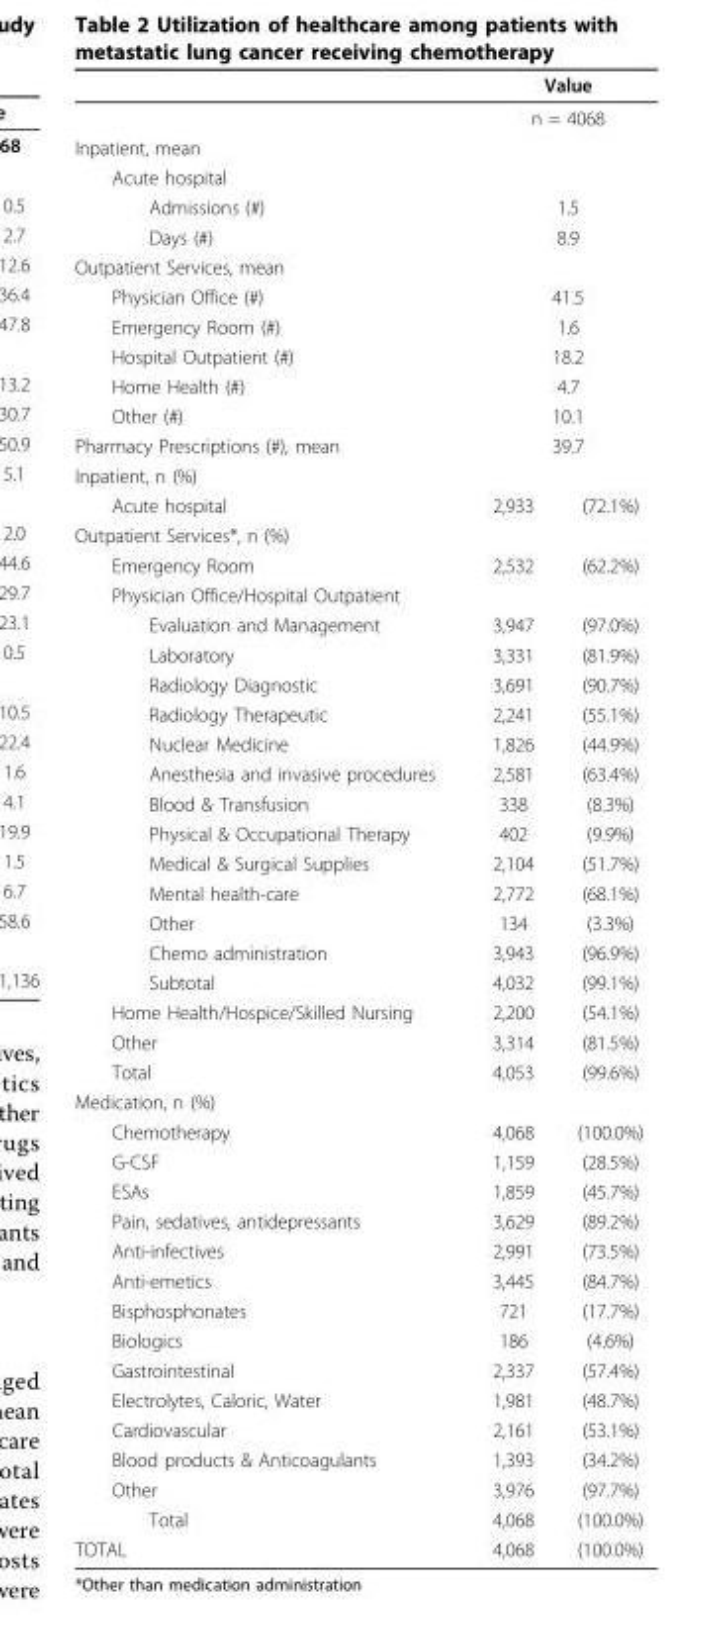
<table><thead><tr><td rowspan="3">Inpatient, mean</td><td rowspan="2" colspan="2">Value n = 4068</td></tr><tr></tr><tr><td></td><td></td></tr></thead><tbody><tr><td colspan="3">Acute hospital</td></tr><tr><td>Admissions (#)</td><td colspan="2">1.5</td></tr><tr><td>Days (#)</td><td colspan="2">8.9</td></tr><tr><td colspan="3">Outpatient Services, mean</td></tr><tr><td>Physician Office (#)</td><td colspan="2">41.5</td></tr><tr><td>Emergency Room (#)</td><td colspan="2">1.6</td></tr><tr><td>Hospital Outpatient (#)</td><td colspan="2">18.2</td></tr><tr><td>Home Health (#)</td><td colspan="2">4.7</td></tr><tr><td>Other (#)</td><td colspan="2">10.1</td></tr><tr><td>Pharmacy Prescriptions (#), mean</td><td colspan="2">39.7</td></tr><tr><td colspan="3">Inpatient, n (%)</td></tr><tr><td>Acute hospital</td><td>2,933</td><td>(72.1%)</td></tr><tr><td colspan="3">Outpatient Services*, n (%)</td></tr><tr><td>Emergency Room</td><td>2,532</td><td>(62.2%)</td></tr><tr><td colspan="3">Physician Office/Hospital Outpatient</td></tr><tr><td>Evaluation and Management</td><td>3,947</td><td>(97.0%)</td></tr><tr><td>Laboratory</td><td>3,331</td><td>(81.9%)</td></tr><tr><td>Radiology Diagnostic</td><td>3,691</td><td>(90.7%)</td></tr><tr><td>Radiology Therapeutic</td><td>2,241</td><td>(55.1%)</td></tr><tr><td>Nuclear Medicine</td><td>1,826</td><td>(44.9%)</td></tr><tr><td>Anesthesia and invasive procedures</td><td>2,581</td><td>(63.4%)</td></tr><tr><td>Blood &amp; Transfusion</td><td>338</td><td>(8.3%)</td></tr><tr><td>Physical &amp; Occupational Therapy</td><td>402</td><td>(9.9%)</td></tr><tr><td>Medical &amp; Surgical Supplies</td><td>2,104</td><td>(51.7%)</td></tr><tr><td>Mental health-care</td><td>2,772</td><td>(68.1%)</td></tr><tr><td>Other</td><td>134</td><td>(3.3%)</td></tr><tr><td>Chemo administration</td><td>3,943</td><td>(96.9%)</td></tr><tr><td>Subtotal</td><td>4,032</td><td>(99.1%)</td></tr><tr><td>Home Health/Hospice/Skilled Nursing</td><td>2,200</td><td>(54.1%)</td></tr><tr><td>Other</td><td>3,314</td><td>(81.5%)</td></tr><tr><td>Total</td><td>4,053</td><td>(99.6%)</td></tr><tr><td colspan="3">Medication, n (%)</td></tr><tr><td>Chemotherapy</td><td>4,068</td><td>(100.0%)</td></tr><tr><td>G-CSF</td><td>1,159</td><td>(28.5%)</td></tr><tr><td>ESAs</td><td>1,859</td><td>(45.7%)</td></tr><tr><td>Pain, sedatives, antidepressants</td><td>3,629</td><td>(89.2%)</td></tr><tr><td>Anti-infectives</td><td>2,991</td><td>(73.5%)</td></tr><tr><td>Anti-emetics</td><td>3,445</td><td>(84.7%)</td></tr><tr><td>Bisphosphonates</td><td>721</td><td>(17.7%)</td></tr><tr><td>Biologics</td><td>186</td><td>(4.6%)</td></tr><tr><td>Gastrointestinal</td><td>2,337</td><td>(57.4%)</td></tr><tr><td>Electrolytes, Caloric, Water</td><td>1,981</td><td>(48.7%)</td></tr><tr><td>Cardiovascular</td><td>2,161</td><td>(53.1%)</td></tr><tr><td>Blood products &amp; Anticoagulants</td><td>1,393</td><td>(34.2%)</td></tr><tr><td>Other</td><td>3,976</td><td>(97.7%)</td></tr><tr><td>Total</td><td>4,068</td><td>(100.0%)</td></tr><tr><td>TOTAL</td><td>4,068</td><td>(100.0%)</td></tr></tbody></table>